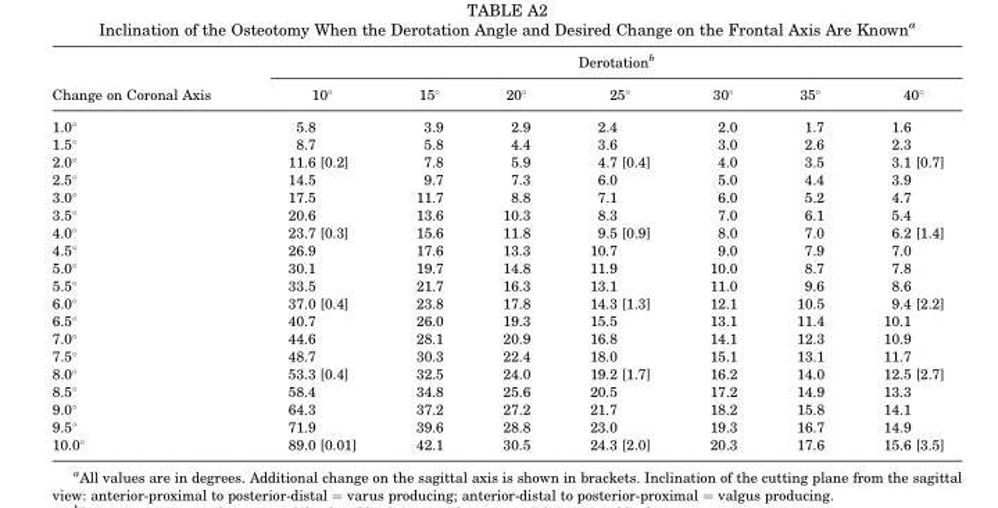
<table><thead><tr><td rowspan="2">Change on Coronal Axis</td><td colspan="7">Derotation<sup>b</sup></td></tr><tr><td>10°</td><td>15°</td><td>20°</td><td>25°</td><td>30°</td><td>35°</td><td>40°</td></tr></thead><tbody><tr><td>1.0°</td><td>5.8</td><td>3.9</td><td>2.9</td><td>2.4</td><td>2.0</td><td>1.7</td><td>1.6</td></tr><tr><td>1.5°</td><td>8.7</td><td>5.8</td><td>4.4</td><td>3.6</td><td>3.0</td><td>2.6</td><td>2.3</td></tr><tr><td>2.0°</td><td>11.6 [0.2]</td><td>7.8</td><td>5.9</td><td>4.7 [0.4]</td><td>4.0</td><td>3.5</td><td>3.1 [0.7]</td></tr><tr><td>2.5°</td><td>14.5</td><td>9.7</td><td>7.3</td><td>6.0</td><td>5.0</td><td>4.4</td><td>3.9</td></tr><tr><td>3.0°</td><td>17.5</td><td>11.7</td><td>8.8</td><td>7.1</td><td>6.0</td><td>5.2</td><td>4.7</td></tr><tr><td>3.5°</td><td>20.6</td><td>13.6</td><td>10.3</td><td>8.3</td><td>7.0</td><td>6.1</td><td>5.4</td></tr><tr><td>4.0°</td><td>23.7 [0.3]</td><td>15.6</td><td>11.8</td><td>9.5 [0.9]</td><td>8.0</td><td>7.0</td><td>6.2 [1.4]</td></tr><tr><td>4.5°</td><td>26.9</td><td>17.6</td><td>13.3</td><td>10.7</td><td>9.0</td><td>7.9</td><td>7.0</td></tr><tr><td>5.0°</td><td>30.1</td><td>19.7</td><td>14.8</td><td>11.9</td><td>10.0</td><td>8.7</td><td>7.8</td></tr><tr><td>5.5°</td><td>33.5</td><td>21.7</td><td>16.3</td><td>13.1</td><td>11.0</td><td>9.6</td><td>8.6</td></tr><tr><td>6.0°</td><td>37.0 [0.4]</td><td>23.8</td><td>17.8</td><td>14.3 [1.3]</td><td>12.1</td><td>10.5</td><td>9.4 [2.2]</td></tr><tr><td>6.5°</td><td>40.7</td><td>26.0</td><td>19.3</td><td>15.5</td><td>13.1</td><td>11.4</td><td>10.1</td></tr><tr><td>7.0°</td><td>44.6</td><td>28.1</td><td>20.9</td><td>16.8</td><td>14.1</td><td>12.3</td><td>10.9</td></tr><tr><td>7.5°</td><td>48.7</td><td>30.3</td><td>22.4</td><td>18.0</td><td>15.1</td><td>13.1</td><td>11.7</td></tr><tr><td>8.0°</td><td>53.3 [0.4]</td><td>32.5</td><td>24.0</td><td>19.2 [1.7]</td><td>16.2</td><td>14.0</td><td>12.5 [2.7]</td></tr><tr><td>8.5°</td><td>58.4</td><td>34.8</td><td>25.6</td><td>20.5</td><td>17.2</td><td>14.9</td><td>13.3</td></tr><tr><td>9.0°</td><td>64.3</td><td>37.2</td><td>27.2</td><td>21.7</td><td>18.2</td><td>15.8</td><td>14.1</td></tr><tr><td>9.5°</td><td>71.9</td><td>39.6</td><td>28.8</td><td>23.0</td><td>19.3</td><td>16.7</td><td>14.9</td></tr><tr><td>10.0°</td><td>89.0 [0.01]</td><td>42.1</td><td>30.5</td><td>24.3 [2.0]</td><td>20.3</td><td>17.6</td><td>15.6 [3.5]</td></tr></tbody></table>